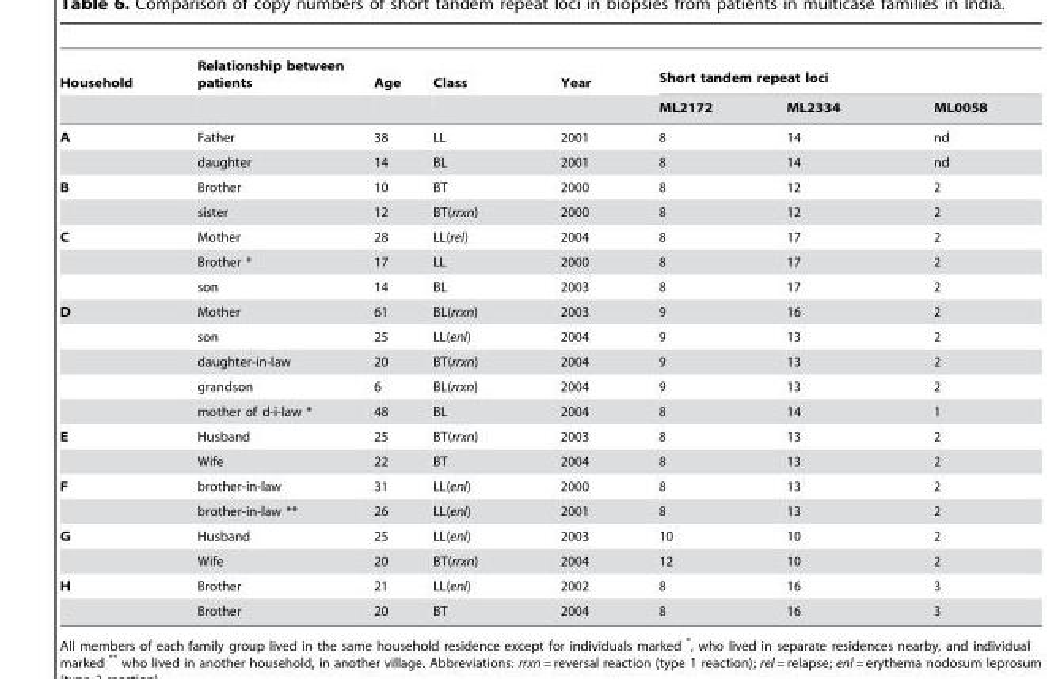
<table><thead><tr><td rowspan="2">Household</td><td rowspan="2">Relationship between patients</td><td rowspan="2">Age</td><td rowspan="2">Class</td><td rowspan="2">Year</td><td colspan="3">Short tandem repeat loci</td></tr><tr><td>ML2172</td><td>ML2334</td><td>ML0058</td></tr></thead><tbody><tr><td rowspan="2">A</td><td>Father</td><td>38</td><td>LL</td><td>2001</td><td>8</td><td>14</td><td>nd</td></tr><tr><td>daughter</td><td>14</td><td>BL</td><td>2001</td><td>8</td><td>14</td><td>nd</td></tr><tr><td rowspan="2">B</td><td>Brother</td><td>10</td><td>BT</td><td>2000</td><td>8</td><td>12</td><td>2</td></tr><tr><td>sister</td><td>12</td><td>BT(rrxn)</td><td>2000</td><td>8</td><td>12</td><td>2</td></tr><tr><td rowspan="3">C</td><td>Mother</td><td>28</td><td>LL(rel)</td><td>2004</td><td>8</td><td>17</td><td>2</td></tr><tr><td>Brother *</td><td>17</td><td>LL</td><td>2000</td><td>8</td><td>17</td><td>2</td></tr><tr><td>son</td><td>14</td><td>BL</td><td>2003</td><td>8</td><td>17</td><td>2</td></tr><tr><td rowspan="5">D</td><td>Mother</td><td>61</td><td>BL(rrxn)</td><td>2003</td><td>9</td><td>16</td><td>2</td></tr><tr><td>son</td><td>25</td><td>LL(enl)</td><td>2004</td><td>9</td><td>13</td><td>2</td></tr><tr><td>daughter-in-law</td><td>20</td><td>BT(rrxn)</td><td>2004</td><td>9</td><td>13</td><td>2</td></tr><tr><td>grandson</td><td>6</td><td>BL(rrxn)</td><td>2004</td><td>9</td><td>13</td><td>2</td></tr><tr><td>mother of d-i-law *</td><td>48</td><td>BL</td><td>2004</td><td>8</td><td>14</td><td>1</td></tr><tr><td rowspan="2">E</td><td>Husband</td><td>25</td><td>BT(rrxn)</td><td>2003</td><td>8</td><td>13</td><td>2</td></tr><tr><td>Wife</td><td>22</td><td>BT</td><td>2004</td><td>8</td><td>13</td><td>2</td></tr><tr><td rowspan="2">F</td><td>brother-in-law</td><td>31</td><td>LL(enl)</td><td>2000</td><td>8</td><td>13</td><td>2</td></tr><tr><td>brother-in-law **</td><td>26</td><td>LL(enl)</td><td>2001</td><td>8</td><td>13</td><td>2</td></tr><tr><td rowspan="2">G</td><td>Husband</td><td>25</td><td>LL(enl)</td><td>2003</td><td>10</td><td>10</td><td>2</td></tr><tr><td>Wife</td><td>20</td><td>BT(rrxn)</td><td>2004</td><td>12</td><td>10</td><td>2</td></tr><tr><td rowspan="2">H</td><td>Brother</td><td>21</td><td>LL(enl)</td><td>2002</td><td>8</td><td>16</td><td>3</td></tr><tr><td>Brother</td><td>20</td><td>BT</td><td>2004</td><td>8</td><td>16</td><td>3</td></tr></tbody></table>